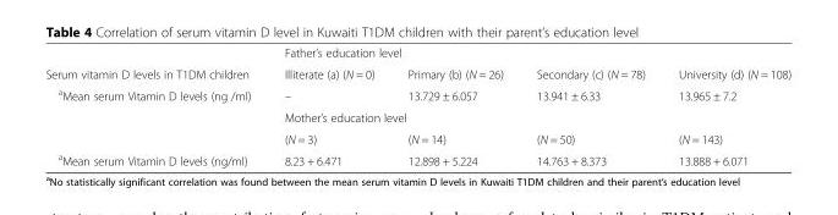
<table><thead><tr><td rowspan="2">Serum vitamin D levels in T1DM children</td><td colspan="4">Father’s education level</td></tr><tr><td>Illiterate (a) (N = 0)</td><td>Primary (b) (N = 26)</td><td>Secondary (c) (N = 78)</td><td>University (d) (N = 108)</td></tr></thead><tbody><tr><td rowspan="3"><sup>a</sup>Mean serum Vitamin D levels (ng /ml)</td><td>–</td><td>13.729 ± 6.057</td><td>13.941 ± 6.33</td><td>13.965 ± 7.2</td></tr><tr><td colspan="4">Mother’s education level</td></tr><tr><td>(N = 3)</td><td>(N = 14)</td><td>(N = 50)</td><td>(N = 143)</td></tr><tr><td><sup>a</sup>Mean serum Vitamin D levels (ng/ml)</td><td>8.23 + 6.471</td><td>12.898 + 5.224</td><td>14.763 + 8.373</td><td>13.888 + 6.071</td></tr></tbody></table>